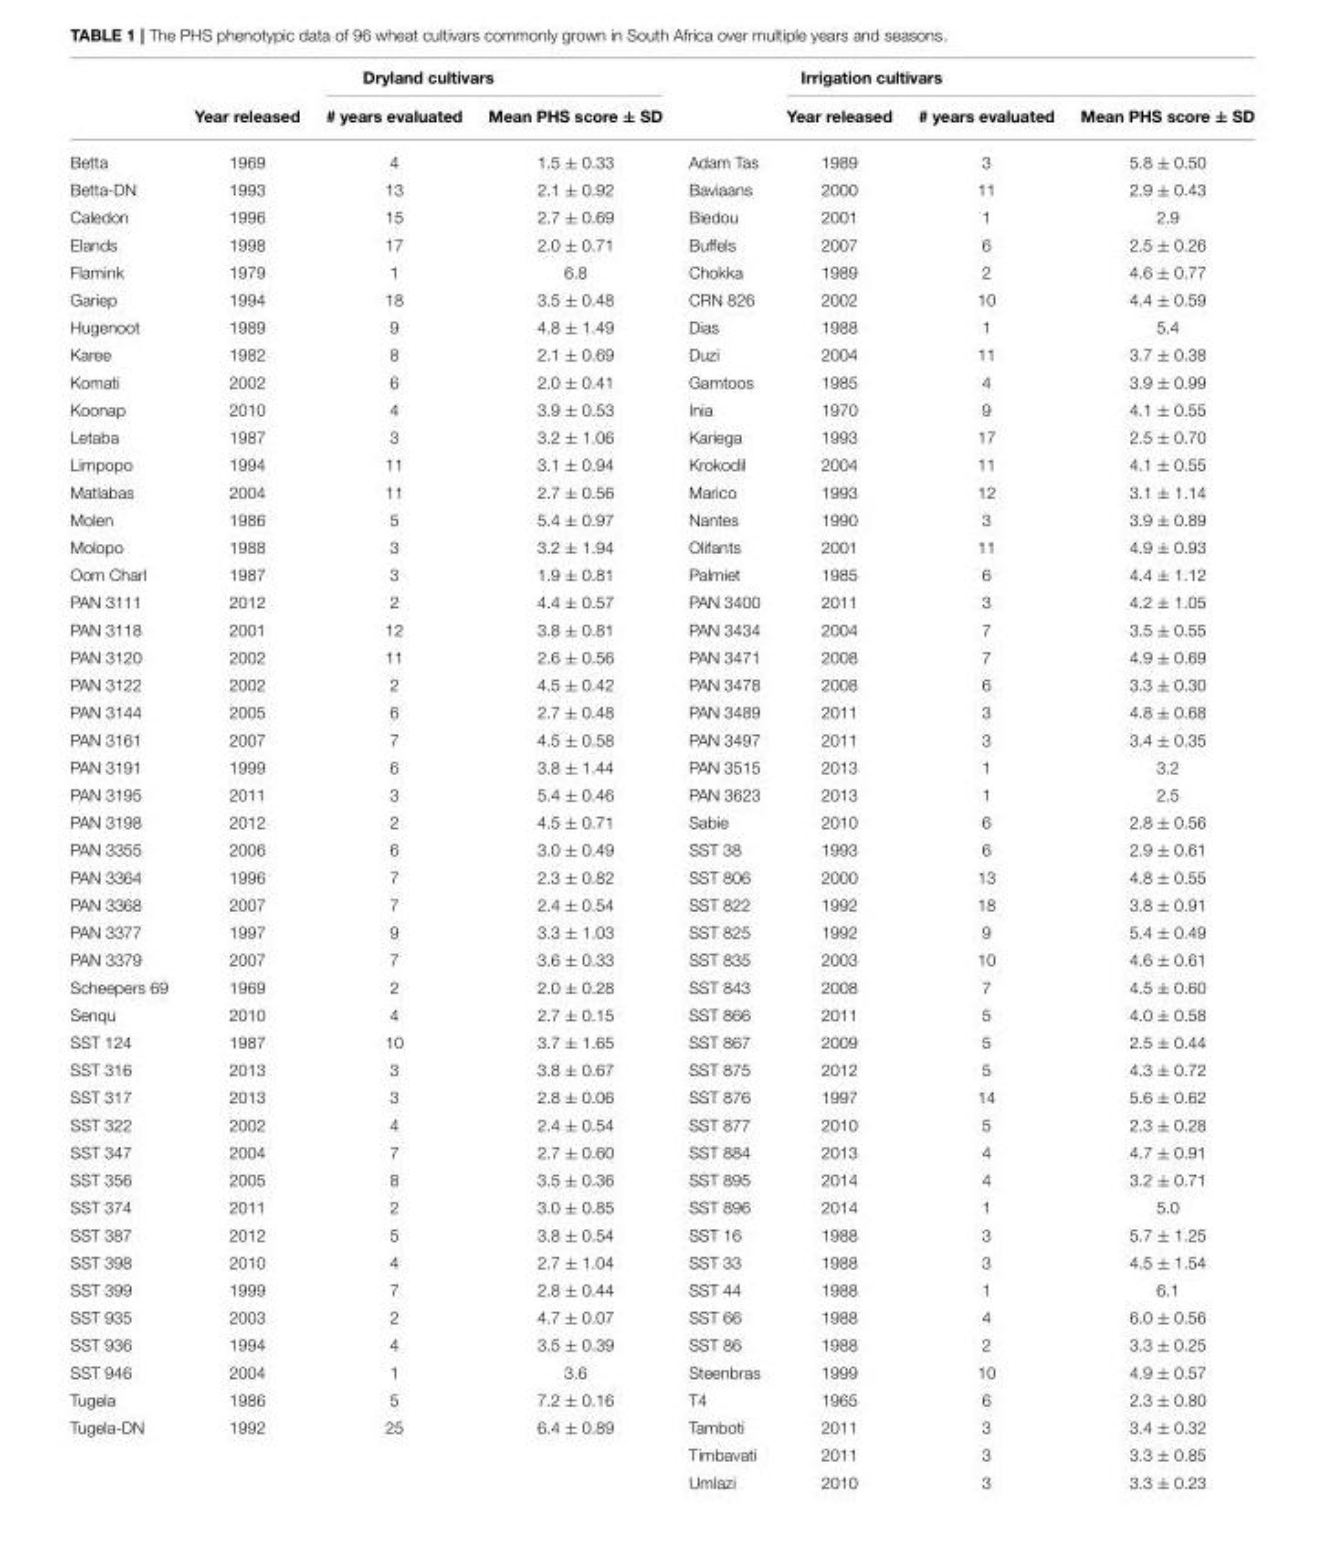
<table><thead><tr><td rowspan="2"></td><td colspan="3">Dryland cultivars</td><td rowspan="2"></td><td colspan="3">Irrigation cultivars</td></tr><tr><td>Year released</td><td># years evaluated</td><td>Mean PHS score ± SD</td><td>Year released</td><td># years evaluated</td><td>Mean PHS score ± SD</td></tr></thead><tbody><tr><td>Betta</td><td>1969</td><td>4</td><td>1.5 ± 0.33</td><td>Adam Tas</td><td>1989</td><td>3</td><td>5.8 ± 0.50</td></tr><tr><td>Betta-DN</td><td>1993</td><td>13</td><td>2.1 ± 0.92</td><td>Baviaans</td><td>2000</td><td>11</td><td>2.9 ± 0.43</td></tr><tr><td>Caledon</td><td>1996</td><td>15</td><td>2.7 ± 0.69</td><td>Biedou</td><td>2001</td><td>1</td><td>2.9</td></tr><tr><td>Elands</td><td>1998</td><td>17</td><td>2.0 ± 0.71</td><td>Buffels</td><td>2007</td><td>6</td><td>2.5 ± 0.26</td></tr><tr><td>Flamink</td><td>1979</td><td>1</td><td>6.8</td><td>Chokka</td><td>1989</td><td>2</td><td>4.6 ± 0.77</td></tr><tr><td>Gariep</td><td>1994</td><td>18</td><td>3.5 ± 0.48</td><td>CRN 826</td><td>2002</td><td>10</td><td>4.4 ± 0.59</td></tr><tr><td>Hugenoot</td><td>1989</td><td>9</td><td>4.8 ± 1.49</td><td>Dias</td><td>1988</td><td>1</td><td>5.4</td></tr><tr><td>Karee</td><td>1982</td><td>8</td><td>2.1 ± 0.69</td><td>Duzi</td><td>2004</td><td>11</td><td>3.7 ± 0.38</td></tr><tr><td>Komati</td><td>2002</td><td>6</td><td>2.0 ± 0.41</td><td>Gamtoos</td><td>1985</td><td>4</td><td>3.9 ± 0.99</td></tr><tr><td>Koonap</td><td>2010</td><td>4</td><td>3.9 ± 0.53</td><td>Inia</td><td>1970</td><td>9</td><td>4.1 ± 0.55</td></tr><tr><td>Letaba</td><td>1987</td><td>3</td><td>3.2 ± 1.06</td><td>Kariega</td><td>1993</td><td>17</td><td>2.5 ± 0.70</td></tr><tr><td>Limpopo</td><td>1994</td><td>11</td><td>3.1 ± 0.94</td><td>Krokodil</td><td>2004</td><td>11</td><td>4.1 ± 0.55</td></tr><tr><td>Matlabas</td><td>2004</td><td>11</td><td>2.7 ± 0.56</td><td>Marico</td><td>1993</td><td>12</td><td>3.1 ± 1.14</td></tr><tr><td>Molen</td><td>1986</td><td>5</td><td>5.4 ± 0.97</td><td>Nantes</td><td>1990</td><td>3</td><td>3.9 ± 0.89</td></tr><tr><td>Molopo</td><td>1988</td><td>3</td><td>3.2 ± 1.94</td><td>Olifants</td><td>2001</td><td>11</td><td>4.9 ± 0.93</td></tr><tr><td>Oom Charl</td><td>1987</td><td>3</td><td>1.9 ± 0.81</td><td>Palmiet</td><td>1985</td><td>6</td><td>4.4 ± 1.12</td></tr><tr><td>PAN 3111</td><td>2012</td><td>2</td><td>4.4 ± 0.57</td><td>PAN 3400</td><td>2011</td><td>3</td><td>4.2 ± 1.05</td></tr><tr><td>PAN 3118</td><td>2001</td><td>12</td><td>3.8 ± 0.81</td><td>PAN 3434</td><td>2004</td><td>7</td><td>3.5 ± 0.55</td></tr><tr><td>PAN 3120</td><td>2002</td><td>11</td><td>2.6 ± 0.56</td><td>PAN 3471</td><td>2008</td><td>7</td><td>4.9 ± 0.69</td></tr><tr><td>PAN 3122</td><td>2002</td><td>2</td><td>4.5 ± 0.42</td><td>PAN 3478</td><td>2008</td><td>6</td><td>3.3 ± 0.30</td></tr><tr><td>PAN 3144</td><td>2005</td><td>6</td><td>2.7 ± 0.48</td><td>PAN 3489</td><td>2011</td><td>3</td><td>4.8 ± 0.68</td></tr><tr><td>PAN 3161</td><td>2007</td><td>7</td><td>4.5 ± 0.58</td><td>PAN 3497</td><td>2011</td><td>3</td><td>3.4 ± 0.35</td></tr><tr><td>PAN 3191</td><td>1999</td><td>6</td><td>3.8 ± 1.44</td><td>PAN 3515</td><td>2013</td><td>1</td><td>3.2</td></tr><tr><td>PAN 3195</td><td>2011</td><td>3</td><td>5.4 ± 0.46</td><td>PAN 3623</td><td>2013</td><td>1</td><td>2.5</td></tr><tr><td>PAN 3198</td><td>2012</td><td>2</td><td>4.5 ± 0.71</td><td>Sabie</td><td>2010</td><td>6</td><td>2.8 ± 0.56</td></tr><tr><td>PAN 3355</td><td>2006</td><td>6</td><td>3.0 ± 0.49</td><td>SST 38</td><td>1993</td><td>6</td><td>2.9 ± 0.61</td></tr><tr><td>PAN 3364</td><td>1996</td><td>7</td><td>2.3 ± 0.82</td><td>SST 806</td><td>2000</td><td>13</td><td>4.8 ± 0.55</td></tr><tr><td>PAN 3368</td><td>2007</td><td>7</td><td>2.4 ± 0.54</td><td>SST 822</td><td>1992</td><td>18</td><td>3.8 ± 0.91</td></tr><tr><td>PAN 3377</td><td>1997</td><td>9</td><td>3.3 ± 1.03</td><td>SST 825</td><td>1992</td><td>9</td><td>5.4 ± 0.49</td></tr><tr><td>PAN 3379</td><td>2007</td><td>7</td><td>3.6 ± 0.33</td><td>SST 835</td><td>2003</td><td>10</td><td>4.6 ± 0.61</td></tr><tr><td>Scheepers 69</td><td>1969</td><td>2</td><td>2.0 ± 0.28</td><td>SST 843</td><td>2008</td><td>7</td><td>4.5 ± 0.60</td></tr><tr><td>Senqu</td><td>2010</td><td>4</td><td>2.7 ± 0.15</td><td>SST 866</td><td>2011</td><td>5</td><td>4.0 ± 0.58</td></tr><tr><td>SST 124</td><td>1987</td><td>10</td><td>3.7 ± 1.65</td><td>SST 867</td><td>2009</td><td>5</td><td>2.5 ± 0.44</td></tr><tr><td>SST 316</td><td>2013</td><td>3</td><td>3.8 ± 0.67</td><td>SST 875</td><td>2012</td><td>5</td><td>4.3 ± 0.72</td></tr><tr><td>SST 317</td><td>2013</td><td>3</td><td>2.8 ± 0.06</td><td>SST 876</td><td>1997</td><td>14</td><td>5.6 ± 0.62</td></tr><tr><td>SST 322</td><td>2002</td><td>4</td><td>2.4 ± 0.54</td><td>SST 877</td><td>2010</td><td>5</td><td>2.3 ± 0.28</td></tr><tr><td>SST 347</td><td>2004</td><td>7</td><td>2.7 ± 0.60</td><td>SST 884</td><td>2013</td><td>4</td><td>4.7 ± 0.91</td></tr><tr><td>SST 356</td><td>2005</td><td>8</td><td>3.5 ± 0.36</td><td>SST 895</td><td>2014</td><td>4</td><td>3.2 ± 0.71</td></tr><tr><td>SST 374</td><td>2011</td><td>2</td><td>3.0 ± 0.85</td><td>SST 896</td><td>2014</td><td>1</td><td>5.0</td></tr><tr><td>SST 387</td><td>2012</td><td>5</td><td>3.8 ± 0.54</td><td>SST 16</td><td>1988</td><td>3</td><td>5.7 ± 1.25</td></tr><tr><td>SST 398</td><td>2010</td><td>4</td><td>2.7 ± 1.04</td><td>SST 33</td><td>1988</td><td>3</td><td>4.5 ± 1.54</td></tr><tr><td>SST 399</td><td>1999</td><td>7</td><td>2.8 ± 0.44</td><td>SST 44</td><td>1988</td><td>1</td><td>6.1</td></tr><tr><td>SST 935</td><td>2003</td><td>2</td><td>4.7 ± 0.07</td><td>SST 66</td><td>1988</td><td>4</td><td>6.0 ± 0.56</td></tr><tr><td>SST 936</td><td>1994</td><td>4</td><td>3.5 ± 0.39</td><td>SST 86</td><td>1988</td><td>2</td><td>3.3 ± 0.25</td></tr><tr><td>SST 946</td><td>2004</td><td>1</td><td>3.6</td><td>Steenbras</td><td>1999</td><td>10</td><td>4.9 ± 0.57</td></tr><tr><td>Tugela</td><td>1986</td><td>5</td><td>7.2 ± 0.16</td><td>T4</td><td>1965</td><td>6</td><td>2.3 ± 0.80</td></tr><tr><td rowspan="3">Tugela-DN</td><td>1992</td><td>25</td><td>6.4 ± 0.89</td><td>Tamboti</td><td>2011</td><td>3</td><td>3.4 ± 0.32</td></tr><tr><td></td><td></td><td></td><td>Timbavati</td><td>2011</td><td>3</td><td>3.3 ± 0.85</td></tr><tr><td></td><td></td><td></td><td>Umlazi</td><td>2010</td><td>3</td><td>3.3 ± 0.23</td></tr></tbody></table>